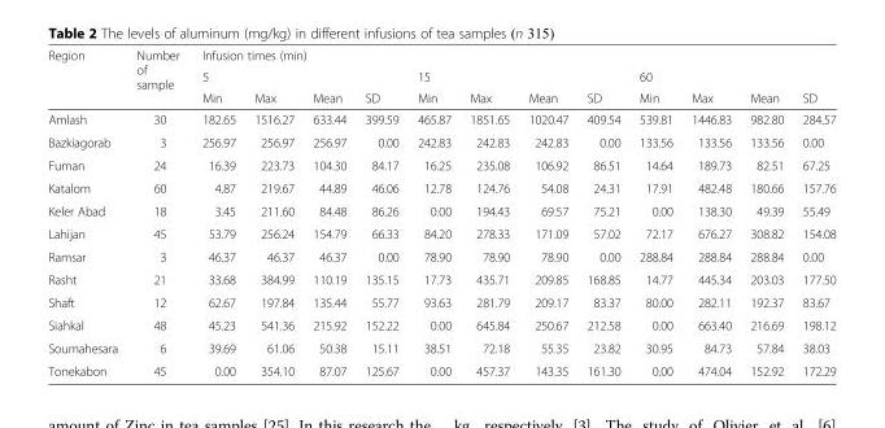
<table><thead><tr><td rowspan="3">Region</td><td rowspan="3">Number of sample</td><td colspan="12">Infusion times (min)</td></tr><tr><td colspan="4">5</td><td colspan="4">15</td><td colspan="4">60</td></tr><tr><td>Min</td><td>Max</td><td>Mean</td><td>SD</td><td>Min</td><td>Max</td><td>Mean</td><td>SD</td><td>Min</td><td>Max</td><td>Mean</td><td>SD</td></tr></thead><tbody><tr><td>Amlash</td><td>30</td><td>182.65</td><td>1516.27</td><td>633.44</td><td>399.59</td><td>465.87</td><td>1851.65</td><td>1020.47</td><td>409.54</td><td>539.81</td><td>1446.83</td><td>982.80</td><td>284.57</td></tr><tr><td>Bazkiagorab</td><td>3</td><td>256.97</td><td>256.97</td><td>256.97</td><td>0.00</td><td>242.83</td><td>242.83</td><td>242.83</td><td>0.00</td><td>133.56</td><td>133.56</td><td>133.56</td><td>0.00</td></tr><tr><td>Fuman</td><td>24</td><td>16.39</td><td>223.73</td><td>104.30</td><td>84.17</td><td>16.25</td><td>235.08</td><td>106.92</td><td>86.51</td><td>14.64</td><td>189.73</td><td>82.51</td><td>67.25</td></tr><tr><td>Katalom</td><td>60</td><td>4.87</td><td>219.67</td><td>44.89</td><td>46.06</td><td>12.78</td><td>124.76</td><td>54.08</td><td>24.31</td><td>17.91</td><td>482.48</td><td>180.66</td><td>157.76</td></tr><tr><td>Keler Abad</td><td>18</td><td>3.45</td><td>211.60</td><td>84.48</td><td>86.26</td><td>0.00</td><td>194.43</td><td>69.57</td><td>75.21</td><td>0.00</td><td>138.30</td><td>49.39</td><td>55.49</td></tr><tr><td>Lahijan</td><td>45</td><td>53.79</td><td>256.24</td><td>154.79</td><td>66.33</td><td>84.20</td><td>278.33</td><td>171.09</td><td>57.02</td><td>72.17</td><td>676.27</td><td>308.82</td><td>154.08</td></tr><tr><td>Ramsar</td><td>3</td><td>46.37</td><td>46.37</td><td>46.37</td><td>0.00</td><td>78.90</td><td>78.90</td><td>78.90</td><td>0.00</td><td>288.84</td><td>288.84</td><td>288.84</td><td>0.00</td></tr><tr><td>Rasht</td><td>21</td><td>33.68</td><td>384.99</td><td>110.19</td><td>135.15</td><td>17.73</td><td>435.71</td><td>209.85</td><td>168.85</td><td>14.77</td><td>445.34</td><td>203.03</td><td>177.50</td></tr><tr><td>Shaft</td><td>12</td><td>62.67</td><td>197.84</td><td>135.44</td><td>55.77</td><td>93.63</td><td>281.79</td><td>209.17</td><td>83.37</td><td>80.00</td><td>282.11</td><td>192.37</td><td>83.67</td></tr><tr><td>Siahkal</td><td>48</td><td>45.23</td><td>541.36</td><td>215.92</td><td>152.22</td><td>0.00</td><td>645.84</td><td>250.67</td><td>212.58</td><td>0.00</td><td>663.40</td><td>216.69</td><td>198.12</td></tr><tr><td>Soumahesara</td><td>6</td><td>39.69</td><td>61.06</td><td>50.38</td><td>15.11</td><td>38.51</td><td>72.18</td><td>55.35</td><td>23.82</td><td>30.95</td><td>84.73</td><td>57.84</td><td>38.03</td></tr><tr><td>Tonekabon</td><td>45</td><td>0.00</td><td>354.10</td><td>87.07</td><td>125.67</td><td>0.00</td><td>457.37</td><td>143.35</td><td>161.30</td><td>0.00</td><td>474.04</td><td>152.92</td><td>172.29</td></tr></tbody></table>